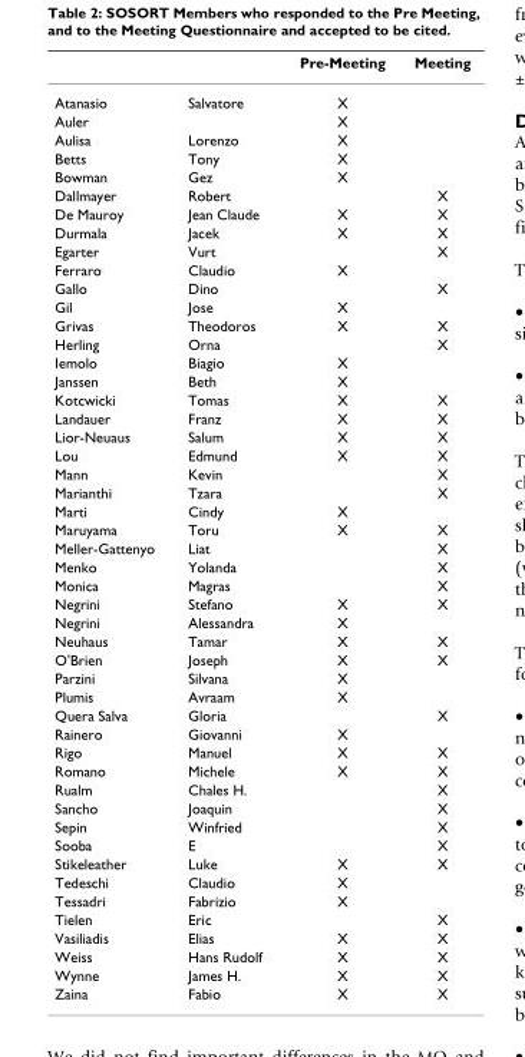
<table><thead><tr><td></td><td></td><td>Pre-Meeting</td><td>Meeting</td></tr></thead><tbody><tr><td>Atanasio</td><td>Salvatore</td><td>X</td><td></td></tr><tr><td>Auler</td><td></td><td>X</td><td></td></tr><tr><td>Aulisa</td><td>Lorenzo</td><td>X</td><td></td></tr><tr><td>Betts</td><td>Tony</td><td>X</td><td></td></tr><tr><td>Bowman</td><td>Gez</td><td>X</td><td></td></tr><tr><td>Dallmayer</td><td>Robert</td><td></td><td>X</td></tr><tr><td>De Mauroy</td><td>Jean Claude</td><td>X</td><td>X</td></tr><tr><td>Durmala</td><td>Jacek</td><td>X</td><td>X</td></tr><tr><td>Egarter</td><td>Vurt</td><td></td><td>X</td></tr><tr><td>Ferraro</td><td>Claudio</td><td>X</td><td></td></tr><tr><td>Gallo</td><td>Dino</td><td></td><td>X</td></tr><tr><td>Gil</td><td>Jose</td><td>X</td><td></td></tr><tr><td>Grivas</td><td>Theodoros</td><td>X</td><td>X</td></tr><tr><td>Herling</td><td>Orna</td><td></td><td>X</td></tr><tr><td>Iemolo</td><td>Biagio</td><td>X</td><td></td></tr><tr><td>Janssen</td><td>Beth</td><td>X</td><td></td></tr><tr><td>Kotcwicki</td><td>Tomas</td><td>X</td><td>X</td></tr><tr><td>Landauer</td><td>Franz</td><td>X</td><td>X</td></tr><tr><td>Lior-Neuaus</td><td>Salum</td><td>X</td><td>X</td></tr><tr><td>Lou</td><td>Edmund</td><td>X</td><td>X</td></tr><tr><td>Mann</td><td>Kevin</td><td></td><td>X</td></tr><tr><td>Marianthi</td><td>Tzara</td><td></td><td>X</td></tr><tr><td>Marti</td><td>Cindy</td><td>X</td><td></td></tr><tr><td>Maruyama</td><td>Toru</td><td>X</td><td>X</td></tr><tr><td>Meller-Gattenyo</td><td>Liat</td><td></td><td>X</td></tr><tr><td>Menko</td><td>Yolanda</td><td></td><td>X</td></tr><tr><td>Monica</td><td>Magras</td><td></td><td>X</td></tr><tr><td>Negrini</td><td>Stefano</td><td>X</td><td>X</td></tr><tr><td>Negrini</td><td>Alessandra</td><td>X</td><td></td></tr><tr><td>Neuhaus</td><td>Tamar</td><td>X</td><td>X</td></tr><tr><td>O&#x27;Brien</td><td>Joseph</td><td>X</td><td>X</td></tr><tr><td>Parzini</td><td>Silvana</td><td>X</td><td></td></tr><tr><td>Plumis</td><td>Avraam</td><td>X</td><td></td></tr><tr><td>Quera Salva</td><td>Gloria</td><td></td><td>X</td></tr><tr><td>Rainero</td><td>Giovanni</td><td>X</td><td></td></tr><tr><td>Rigo</td><td>Manuel</td><td>X</td><td>X</td></tr><tr><td>Romano</td><td>Michele</td><td>X</td><td>X</td></tr><tr><td>Rualm</td><td>Chales H.</td><td></td><td>X</td></tr><tr><td>Sancho</td><td>Joaquin</td><td></td><td>X</td></tr><tr><td>Sepin</td><td>Winfried</td><td></td><td>X</td></tr><tr><td>Sooba</td><td>E</td><td></td><td>X</td></tr><tr><td>Stikeleather</td><td>Luke</td><td>X</td><td>X</td></tr><tr><td>Tedeschi</td><td>Claudio</td><td>X</td><td></td></tr><tr><td>Tessadri</td><td>Fabrizio</td><td>X</td><td></td></tr><tr><td>Tielen</td><td>Eric</td><td></td><td>X</td></tr><tr><td>Vasiliadis</td><td>Elias</td><td>X</td><td>X</td></tr><tr><td>Weiss</td><td>Hans Rudolf</td><td>X</td><td>X</td></tr><tr><td>Wynne</td><td>James H.</td><td>X</td><td>X</td></tr><tr><td>Zaina</td><td>Fabio</td><td>X</td><td>X</td></tr></tbody></table>